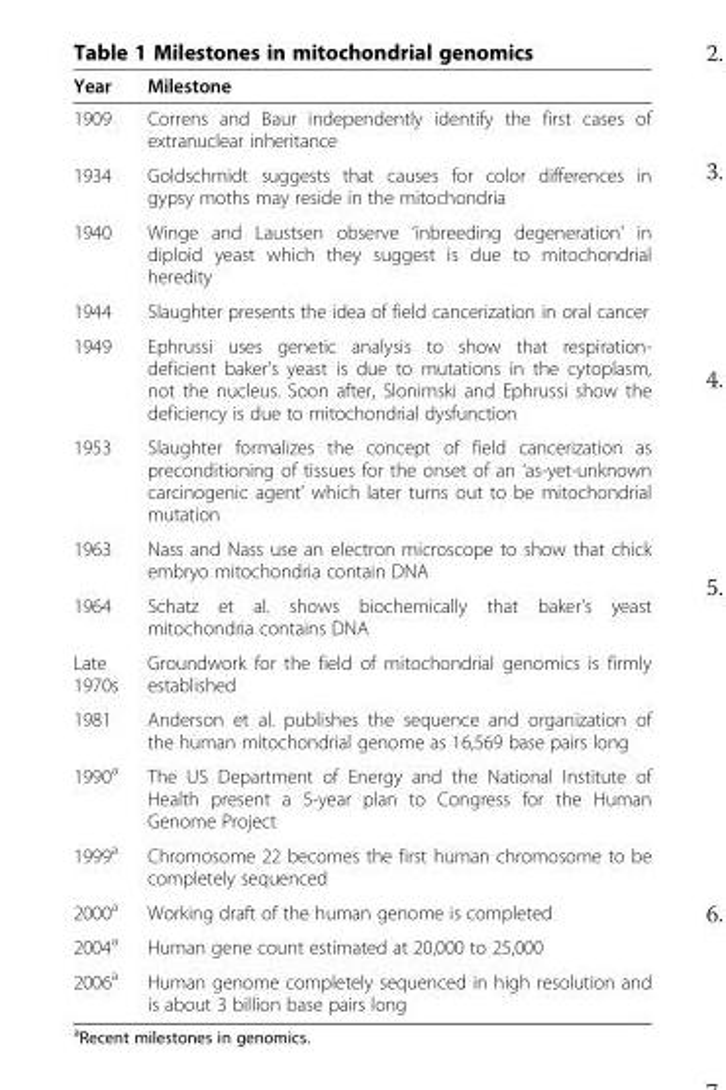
<table><thead><tr><td>Year</td><td>Milestone</td></tr></thead><tbody><tr><td>1909</td><td>Correns and Baur independently identify the first cases of extranuclear inheritance</td></tr><tr><td>1934</td><td>Goldschmidt suggests that causes for color differences in gypsy moths may reside in the mitochondria</td></tr><tr><td>1940</td><td>Winge and Laustsen observe ‘inbreeding degeneration’ in diploid yeast which they suggest is due to mitochondrial heredity</td></tr><tr><td>1944</td><td>Slaughter presents the idea of field cancerization in oral cancer</td></tr><tr><td>1949</td><td>Ephrussi uses genetic analysis to show that respiration- deficient baker&#x27;s yeast is due to mutations in the cytoplasm, not the nucleus. Soon after, Slonimski and Ephrussi show the deficiency is due to mitochondrial dysfunction</td></tr><tr><td>1953</td><td>Slaughter formalizes the concept of field cancerization as preconditioning of tissues for the onset of an ‘as-yet-unknown carcinogenic agent’ which later turns out to be mitochondrial mutation</td></tr><tr><td>1963</td><td>Nass and Nass use an electron microscope to show that chick embryo mitochondria contain DNA</td></tr><tr><td>1964</td><td>Schatz et al. shows biochemically that baker&#x27;s yeast mitochondria contains DNA</td></tr><tr><td>Late 1970s</td><td>Groundwork for the field of mitochondrial genomics is firmly established</td></tr><tr><td>1981</td><td>Anderson et al. publishes the sequence and organization of the human mitochondrial genome as 16,569 base pairs long</td></tr><tr><td>1990<sup>a</sup></td><td>The US Department of Energy and the National Institute of Health present a 5-year plan to Congress for the Human Genome Project</td></tr><tr><td>1999<sup>a</sup></td><td>Chromosome 22 becomes the first human chromosome to be completely sequenced</td></tr><tr><td>2000<sup>a</sup></td><td>Working draft of the human genome is completed</td></tr><tr><td>2004<sup>a</sup></td><td>Human gene count estimated at 20,000 to 25,000</td></tr><tr><td>2006<sup>a</sup></td><td>Human genome completely sequenced in high resolution and is about 3 billion base pairs long</td></tr></tbody></table>